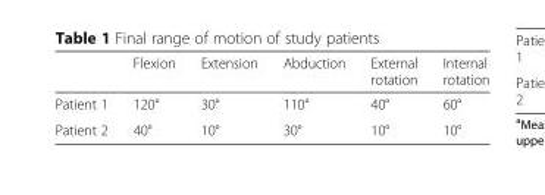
<table><thead><tr><td></td><td>Flexion</td><td>Extension</td><td>Abduction</td><td>External rotation</td><td>Internal rotation</td></tr></thead><tbody><tr><td>Patient 1</td><td>120°</td><td>30°</td><td>110°</td><td>40°</td><td>60°</td></tr><tr><td>Patient 2</td><td>40°</td><td>10°</td><td>30°</td><td>10°</td><td>10°</td></tr></tbody></table>